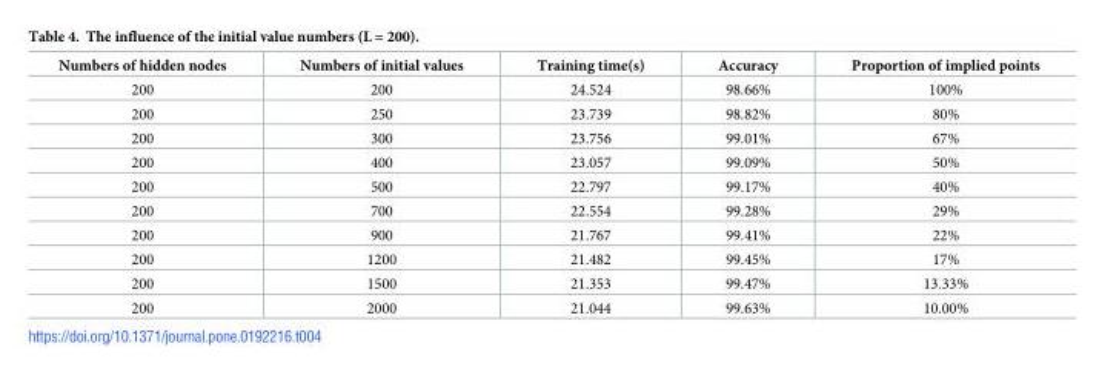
<table><thead><tr><td>Numbers of hidden nodes</td><td>Numbers of initial values</td><td>Training time(s)</td><td>Accuracy</td><td>Proportion of implied points</td></tr></thead><tbody><tr><td>200</td><td>200</td><td>24.524</td><td>98.66%</td><td>100%</td></tr><tr><td>200</td><td>250</td><td>23.739</td><td>98.82%</td><td>80%</td></tr><tr><td>200</td><td>300</td><td>23.756</td><td>99.01%</td><td>67%</td></tr><tr><td>200</td><td>400</td><td>23.057</td><td>99.09%</td><td>50%</td></tr><tr><td>200</td><td>500</td><td>22.797</td><td>99.17%</td><td>40%</td></tr><tr><td>200</td><td>700</td><td>22.554</td><td>99.28%</td><td>29%</td></tr><tr><td>200</td><td>900</td><td>21.767</td><td>99.41%</td><td>22%</td></tr><tr><td>200</td><td>1200</td><td>21.482</td><td>99.45%</td><td>17%</td></tr><tr><td>200</td><td>1500</td><td>21.353</td><td>99.47%</td><td>13.33%</td></tr><tr><td>200</td><td>2000</td><td>21.044</td><td>99.63%</td><td>10.00%</td></tr></tbody></table>